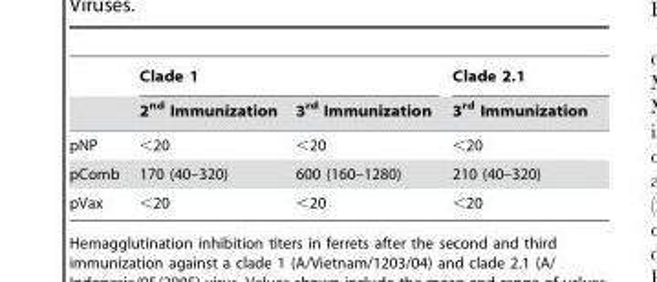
<table><thead><tr><td rowspan="2"></td><td colspan="2">Clade 1</td><td rowspan="2">Clade 2.1 3<sup>rd</sup> Immunization</td></tr><tr><td>2<sup>nd</sup> Immunization</td><td>3<sup>rd</sup> Immunization</td></tr></thead><tbody><tr><td>pNP</td><td>&lt;20</td><td>&lt;20</td><td>&lt;20</td></tr><tr><td>pComb</td><td>170 (40–320)</td><td>600 (160–1280)</td><td>210 (40–320)</td></tr><tr><td>pVax</td><td>&lt;20</td><td>&lt;20</td><td>&lt;20</td></tr></tbody></table>